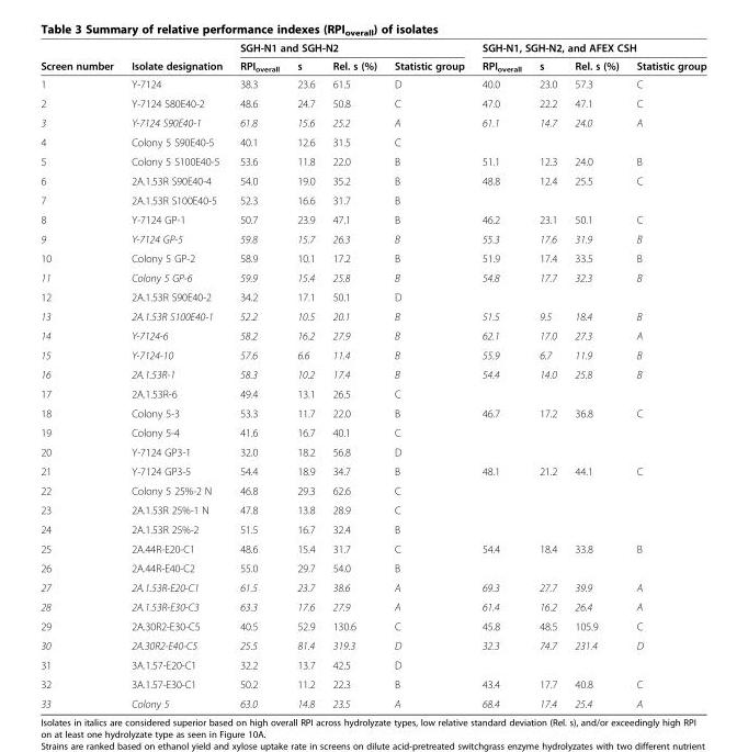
<table><thead><tr><td rowspan="2">Screen number</td><td rowspan="2">Isolate designation</td><td colspan="4">SGH-N1 and SGH-N2</td><td colspan="4">SGH-N1, SGH-N2, and AFEX CSH</td></tr><tr><td>RPI<sub>overall</sub></td><td>s</td><td>Rel. s (%)</td><td>Statistic group</td><td>RPI<sub>overall</sub></td><td>s</td><td>Rel. s (%)</td><td>Statistic group</td></tr></thead><tbody><tr><td>1</td><td>Y-7124</td><td>38.3</td><td>23.6</td><td>61.5</td><td>D</td><td>40.0</td><td>23.0</td><td>57.3</td><td>C</td></tr><tr><td>2</td><td>Y-7124 S80E40-2</td><td>48.6</td><td>24.7</td><td>50.8</td><td>C</td><td>47.0</td><td>22.2</td><td>47.1</td><td>C</td></tr><tr><td>3</td><td>Y-7124 S90E40-1</td><td>61.8</td><td>15.6</td><td>25.2</td><td>A</td><td>61.1</td><td>14.7</td><td>24.0</td><td>A</td></tr><tr><td>4</td><td>Colony 5 S90E40-5</td><td>40.1</td><td>12.6</td><td>31.5</td><td>C</td><td></td><td></td><td></td><td></td></tr><tr><td>5</td><td>Colony 5 S100E40-5</td><td>53.6</td><td>11.8</td><td>22.0</td><td>B</td><td>51.1</td><td>12.3</td><td>24.0</td><td>B</td></tr><tr><td>6</td><td>2A.1.53R S90E40-4</td><td>54.0</td><td>19.0</td><td>35.2</td><td>B</td><td>48.8</td><td>12.4</td><td>25.5</td><td>C</td></tr><tr><td>7</td><td>2A.1.53R S100E40-5</td><td>52.3</td><td>16.6</td><td>31.7</td><td>B</td><td></td><td></td><td></td><td></td></tr><tr><td>8</td><td>Y-7124 GP-1</td><td>50.7</td><td>23.9</td><td>47.1</td><td>B</td><td>46.2</td><td>23.1</td><td>50.1</td><td>C</td></tr><tr><td>9</td><td>Y-7124 GP-5</td><td>59.8</td><td>15.7</td><td>26.3</td><td>B</td><td>55.3</td><td>17.6</td><td>31.9</td><td>B</td></tr><tr><td>10</td><td>Colony 5 GP-2</td><td>58.9</td><td>10.1</td><td>17.2</td><td>B</td><td>51.9</td><td>17.4</td><td>33.5</td><td>B</td></tr><tr><td>11</td><td>Colony 5 GP-6</td><td>59.9</td><td>15.4</td><td>25.8</td><td>B</td><td>54.8</td><td>17.7</td><td>32.3</td><td>B</td></tr><tr><td>12</td><td>2A.1.53R S90E40-2</td><td>34.2</td><td>17.1</td><td>50.1</td><td>D</td><td></td><td></td><td></td><td></td></tr><tr><td>13</td><td>2A.1.53R S100E40-1</td><td>52.2</td><td>10.5</td><td>20.1</td><td>B</td><td>51.5</td><td>9.5</td><td>18.4</td><td>B</td></tr><tr><td>14</td><td>Y-7124-6</td><td>58.2</td><td>16.2</td><td>27.9</td><td>B</td><td>62.1</td><td>17.0</td><td>27.3</td><td>A</td></tr><tr><td>15</td><td>Y-7124-10</td><td>57.6</td><td>6.6</td><td>11.4</td><td>B</td><td>55.9</td><td>6.7</td><td>11.9</td><td>B</td></tr><tr><td>16</td><td>2A.1.53R-1</td><td>58.3</td><td>10.2</td><td>17.4</td><td>B</td><td>54.4</td><td>14.0</td><td>25.8</td><td>B</td></tr><tr><td>17</td><td>2A.1.53R-6</td><td>49.4</td><td>13.1</td><td>26.5</td><td>C</td><td></td><td></td><td></td><td></td></tr><tr><td>18</td><td>Colony 5-3</td><td>53.3</td><td>11.7</td><td>22.0</td><td>B</td><td>46.7</td><td>17.2</td><td>36.8</td><td>C</td></tr><tr><td>19</td><td>Colony 5-4</td><td>41.6</td><td>16.7</td><td>40.1</td><td>C</td><td></td><td></td><td></td><td></td></tr><tr><td>20</td><td>Y-7124 GP3-1</td><td>32.0</td><td>18.2</td><td>56.8</td><td>D</td><td></td><td></td><td></td><td></td></tr><tr><td>21</td><td>Y-7124 GP3-5</td><td>54.4</td><td>18.9</td><td>34.7</td><td>B</td><td>48.1</td><td>21.2</td><td>44.1</td><td>C</td></tr><tr><td>22</td><td>Colony 5 25%-2 N</td><td>46.8</td><td>29.3</td><td>62.6</td><td>C</td><td></td><td></td><td></td><td></td></tr><tr><td>23</td><td>2A.1.53R 25%-1 N</td><td>47.8</td><td>13.8</td><td>28.9</td><td>C</td><td></td><td></td><td></td><td></td></tr><tr><td>24</td><td>2A.1.53R 25%-2</td><td>51.5</td><td>16.7</td><td>32.4</td><td>B</td><td></td><td></td><td></td><td></td></tr><tr><td>25</td><td>2A.44R-E20-C1</td><td>48.6</td><td>15.4</td><td>31.7</td><td>C</td><td>54.4</td><td>18.4</td><td>33.8</td><td>B</td></tr><tr><td>26</td><td>2A.44R-E40-C2</td><td>55.0</td><td>29.7</td><td>54.0</td><td>B</td><td></td><td></td><td></td><td></td></tr><tr><td>27</td><td>2A.1.53R-E20-C1</td><td>61.5</td><td>23.7</td><td>38.6</td><td>A</td><td>69.3</td><td>27.7</td><td>39.9</td><td>A</td></tr><tr><td>28</td><td>2A.1.53R-E30-C3</td><td>63.3</td><td>17.6</td><td>27.9</td><td>A</td><td>61.4</td><td>16.2</td><td>26.4</td><td>A</td></tr><tr><td>29</td><td>2A.30R2-E30-C5</td><td>40.5</td><td>52.9</td><td>130.6</td><td>C</td><td>45.8</td><td>48.5</td><td>105.9</td><td>C</td></tr><tr><td>30</td><td>2A.30R2-E40-C5</td><td>25.5</td><td>81.4</td><td>319.3</td><td>D</td><td>32.3</td><td>74.7</td><td>231.4</td><td>D</td></tr><tr><td>31</td><td>3A.1.57-E20-C1</td><td>32.2</td><td>13.7</td><td>42.5</td><td>D</td><td></td><td></td><td></td><td></td></tr><tr><td>32</td><td>3A.1.57-E30-C1</td><td>50.2</td><td>11.2</td><td>22.3</td><td>B</td><td>43.4</td><td>17.7</td><td>40.8</td><td>C</td></tr><tr><td>33</td><td>Colony 5</td><td>63.0</td><td>14.8</td><td>23.5</td><td>A</td><td>68.4</td><td>17.4</td><td>25.4</td><td>A</td></tr></tbody></table>